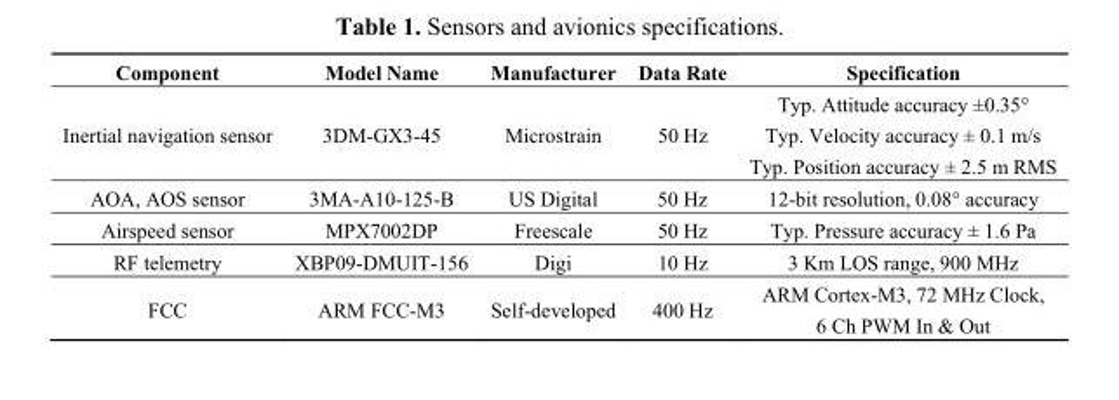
<table><thead><tr><td>Component</td><td>Model Name</td><td>Manufacturer</td><td>Data Rate</td><td>Specification</td></tr></thead><tbody><tr><td>Inertial navigation sensor</td><td>3DM-GX3-45</td><td>Microstrain</td><td>50 Hz</td><td>Typ. Attitude accuracy ±0.35° Typ. Velocity accuracy ± 0.1 m/s Typ. Position accuracy ± 2.5 m RMS</td></tr><tr><td>AOA, AOS sensor</td><td>3MA-A10-125-B</td><td>US Digital</td><td>50 Hz</td><td>12-bit resolution, 0.08° accuracy</td></tr><tr><td>Airspeed sensor</td><td>MPX7002DP</td><td>Freescale</td><td>50 Hz</td><td>Typ. Pressure accuracy ± 1.6 Pa</td></tr><tr><td>RF telemetry</td><td>XBP09-DMUIT-156</td><td>Digi</td><td>10 Hz</td><td>3 Km LOS range, 900 MHz</td></tr><tr><td>FCC</td><td>ARM FCC-M3</td><td>Self-developed</td><td>400 Hz</td><td>ARM Cortex-M3, 72 MHz Clock, 6 Ch PWM In &amp; Out</td></tr></tbody></table>